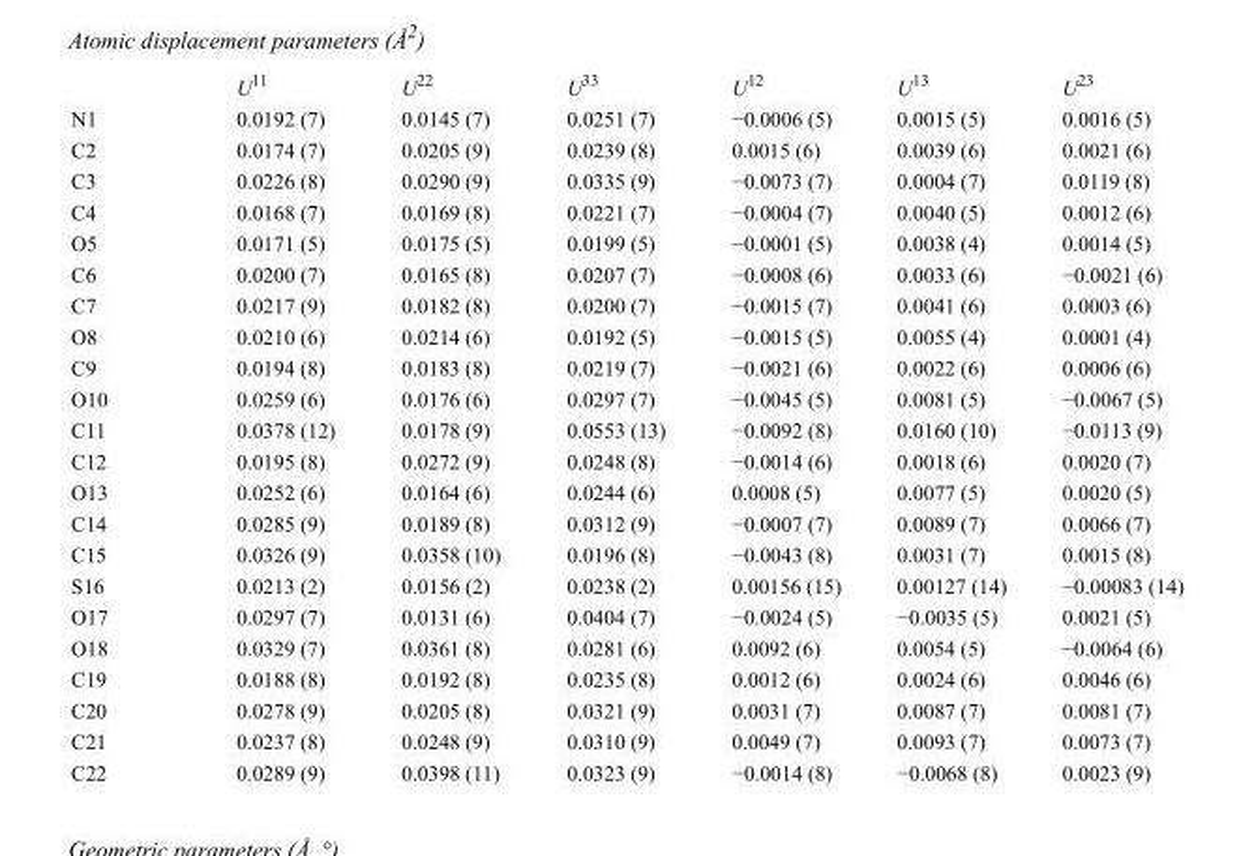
<table><thead><tr><td></td><td>U<sup>11</sup></td><td>U<sup>22</sup></td><td>U<sup>33</sup></td><td>U<sup>12</sup></td><td>U<sup>13</sup></td><td>U<sup>23</sup></td></tr></thead><tbody><tr><td>N1</td><td>0.0192 (7)</td><td>0.0145 (7)</td><td>0.0251 (7)</td><td>−0.0006 (5)</td><td>0.0015 (5)</td><td>0.0016 (5)</td></tr><tr><td>C2</td><td>0.0174 (7)</td><td>0.0205 (9)</td><td>0.0239 (8)</td><td>0.0015 (6)</td><td>0.0039 (6)</td><td>0.0021 (6)</td></tr><tr><td>C3</td><td>0.0226 (8)</td><td>0.0290 (9)</td><td>0.0335 (9)</td><td>−0.0073 (7)</td><td>0.0004 (7)</td><td>0.0119 (8)</td></tr><tr><td>C4</td><td>0.0168 (7)</td><td>0.0169 (8)</td><td>0.0221 (7)</td><td>−0.0004 (7)</td><td>0.0040 (5)</td><td>0.0012 (6)</td></tr><tr><td>O5</td><td>0.0171 (5)</td><td>0.0175 (5)</td><td>0.0199 (5)</td><td>−0.0001 (5)</td><td>0.0038 (4)</td><td>0.0014 (5)</td></tr><tr><td>C6</td><td>0.0200 (7)</td><td>0.0165 (8)</td><td>0.0207 (7)</td><td>−0.0008 (6)</td><td>0.0033 (6)</td><td>−0.0021 (6)</td></tr><tr><td>C7</td><td>0.0217 (9)</td><td>0.0182 (8)</td><td>0.0200 (7)</td><td>−0.0015 (7)</td><td>0.0041 (6)</td><td>0.0003 (6)</td></tr><tr><td>O8</td><td>0.0210 (6)</td><td>0.0214 (6)</td><td>0.0192 (5)</td><td>−0.0015 (5)</td><td>0.0055 (4)</td><td>0.0001 (4)</td></tr><tr><td>C9</td><td>0.0194 (8)</td><td>0.0183 (8)</td><td>0.0219 (7)</td><td>−0.0021 (6)</td><td>0.0022 (6)</td><td>0.0006 (6)</td></tr><tr><td>O10</td><td>0.0259 (6)</td><td>0.0176 (6)</td><td>0.0297 (7)</td><td>−0.0045 (5)</td><td>0.0081 (5)</td><td>−0.0067 (5)</td></tr><tr><td>C11</td><td>0.0378 (12)</td><td>0.0178 (9)</td><td>0.0553 (13)</td><td>−0.0092 (8)</td><td>0.0160 (10)</td><td>−0.0113 (9)</td></tr><tr><td>C12</td><td>0.0195 (8)</td><td>0.0272 (9)</td><td>0.0248 (8)</td><td>−0.0014 (6)</td><td>0.0018 (6)</td><td>0.0020 (7)</td></tr><tr><td>O13</td><td>0.0252 (6)</td><td>0.0164 (6)</td><td>0.0244 (6)</td><td>0.0008 (5)</td><td>0.0077 (5)</td><td>0.0020 (5)</td></tr><tr><td>C14</td><td>0.0285 (9)</td><td>0.0189 (8)</td><td>0.0312 (9)</td><td>−0.0007 (7)</td><td>0.0089 (7)</td><td>0.0066 (7)</td></tr><tr><td>C15</td><td>0.0326 (9)</td><td>0.0358 (10)</td><td>0.0196 (8)</td><td>−0.0043 (8)</td><td>0.0031 (7)</td><td>0.0015 (8)</td></tr><tr><td>S16</td><td>0.0213 (2)</td><td>0.0156 (2)</td><td>0.0238 (2)</td><td>0.00156 (15)</td><td>0.00127 (14)</td><td>−0.00083 (14)</td></tr><tr><td>O17</td><td>0.0297 (7)</td><td>0.0131 (6)</td><td>0.0404 (7)</td><td>−0.0024 (5)</td><td>−0.0035 (5)</td><td>0.0021 (5)</td></tr><tr><td>O18</td><td>0.0329 (7)</td><td>0.0361 (8)</td><td>0.0281 (6)</td><td>0.0092 (6)</td><td>0.0054 (5)</td><td>−0.0064 (6)</td></tr><tr><td>C19</td><td>0.0188 (8)</td><td>0.0192 (8)</td><td>0.0235 (8)</td><td>0.0012 (6)</td><td>0.0024 (6)</td><td>0.0046 (6)</td></tr><tr><td>C20</td><td>0.0278 (9)</td><td>0.0205 (8)</td><td>0.0321 (9)</td><td>0.0031 (7)</td><td>0.0087 (7)</td><td>0.0081 (7)</td></tr><tr><td>C21</td><td>0.0237 (8)</td><td>0.0248 (9)</td><td>0.0310 (9)</td><td>0.0049 (7)</td><td>0.0093 (7)</td><td>0.0073 (7)</td></tr><tr><td>C22</td><td>0.0289 (9)</td><td>0.0398 (11)</td><td>0.0323 (9)</td><td>−0.0014 (8)</td><td>−0.0068 (8)</td><td>0.0023 (9)</td></tr></tbody></table>